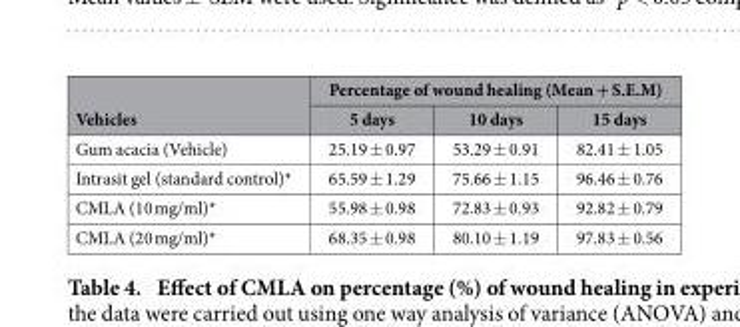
<table><thead><tr><td rowspan="2">Vehicles</td><td colspan="3">Percentage of wound healing (Mean + S.E.M)</td></tr><tr><td>5 days</td><td>10 days</td><td>15 days</td></tr></thead><tbody><tr><td>Gum acacia (Vehicle)</td><td>25.19 ± 0.97</td><td>53.29 ± 0.91</td><td>82.41 ± 1.05</td></tr><tr><td>Intrasit gel (standard control)*</td><td>65.59 ± 1.29</td><td>75.66 ± 1.15</td><td>96.46 ± 0.76</td></tr><tr><td>CMLA (10 mg/ml)*</td><td>55.98 ± 0.98</td><td>72.83 ± 0.93</td><td>92.82 ± 0.79</td></tr><tr><td>CMLA (20 mg/ml)*</td><td>68.35 ± 0.98</td><td>80.10 ± 1.19</td><td>97.83 ± 0.56</td></tr></tbody></table>